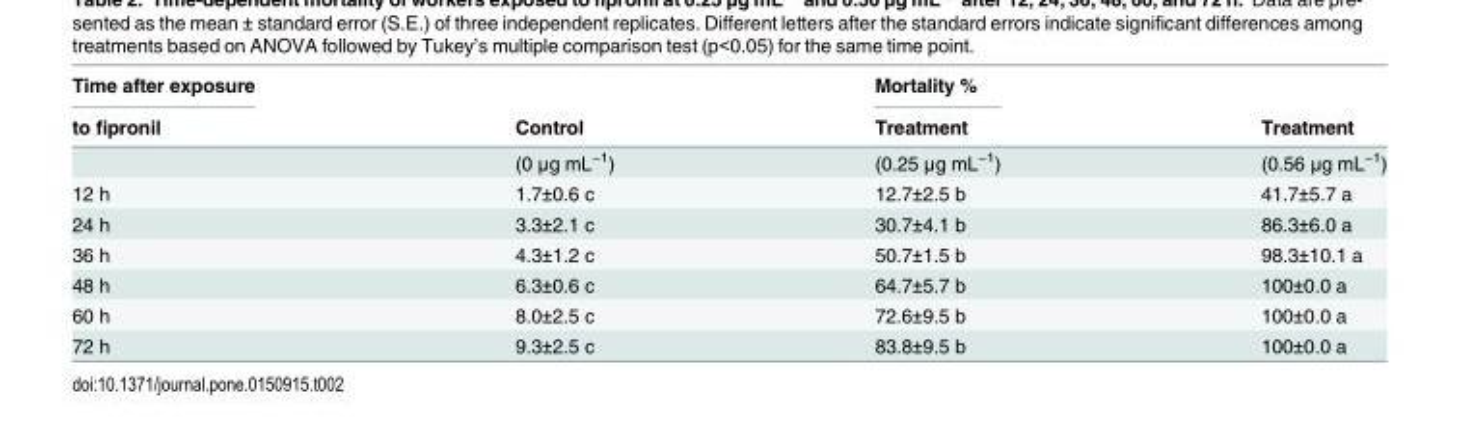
<table><thead><tr><td rowspan="2">Time after exposure to fipronil</td><td rowspan="2">Control</td><td rowspan="2">Mortality % Treatment</td><td rowspan="2">Treatment</td></tr><tr></tr></thead><tbody><tr><td></td><td>(0 μg mL<sup>−1</sup>)</td><td>(0.25 μg mL<sup>−1</sup>)</td><td>(0.56 μg mL<sup>−1</sup>)</td></tr><tr><td>12 h</td><td>1.7±0.6 c</td><td>12.7±2.5 b</td><td>41.7±5.7 a</td></tr><tr><td>24 h</td><td>3.3±2.1 c</td><td>30.7±4.1 b</td><td>86.3±6.0 a</td></tr><tr><td>36 h</td><td>4.3±1.2 c</td><td>50.7±1.5 b</td><td>98.3±10.1 a</td></tr><tr><td>48 h</td><td>6.3±0.6 c</td><td>64.7±5.7 b</td><td>100±0.0 a</td></tr><tr><td>60 h</td><td>8.0±2.5 c</td><td>72.6±9.5 b</td><td>100±0.0 a</td></tr><tr><td>72 h</td><td>9.3±2.5 c</td><td>83.8±9.5 b</td><td>100±0.0 a</td></tr></tbody></table>